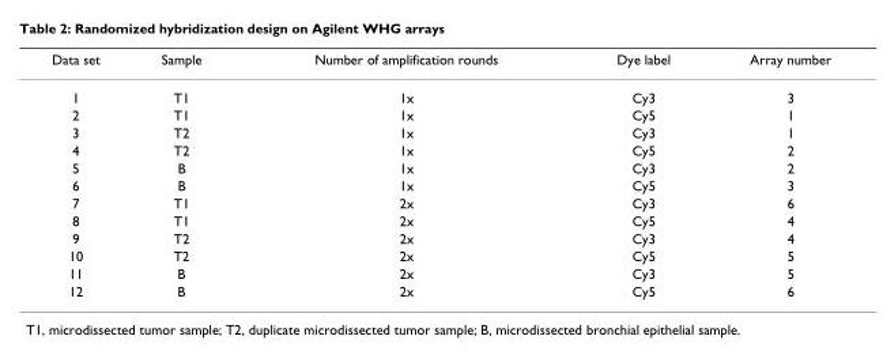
<table><thead><tr><td>Data set</td><td>Sample</td><td>Number of amplification rounds</td><td>Dye label</td><td>Array number</td></tr></thead><tbody><tr><td>1</td><td>T1</td><td>1x</td><td>Cy3</td><td>3</td></tr><tr><td>2</td><td>T1</td><td>1x</td><td>Cy5</td><td>1</td></tr><tr><td>3</td><td>T2</td><td>1x</td><td>Cy3</td><td>1</td></tr><tr><td>4</td><td>T2</td><td>1x</td><td>Cy5</td><td>2</td></tr><tr><td>5</td><td>B</td><td>1x</td><td>Cy3</td><td>2</td></tr><tr><td>6</td><td>B</td><td>1x</td><td>Cy5</td><td>3</td></tr><tr><td>7</td><td>T1</td><td>2x</td><td>Cy3</td><td>6</td></tr><tr><td>8</td><td>T1</td><td>2x</td><td>Cy5</td><td>4</td></tr><tr><td>9</td><td>T2</td><td>2x</td><td>Cy3</td><td>4</td></tr><tr><td>10</td><td>T2</td><td>2x</td><td>Cy5</td><td>5</td></tr><tr><td>11</td><td>B</td><td>2x</td><td>Cy3</td><td>5</td></tr><tr><td>12</td><td>B</td><td>2x</td><td>Cy5</td><td>6</td></tr></tbody></table>